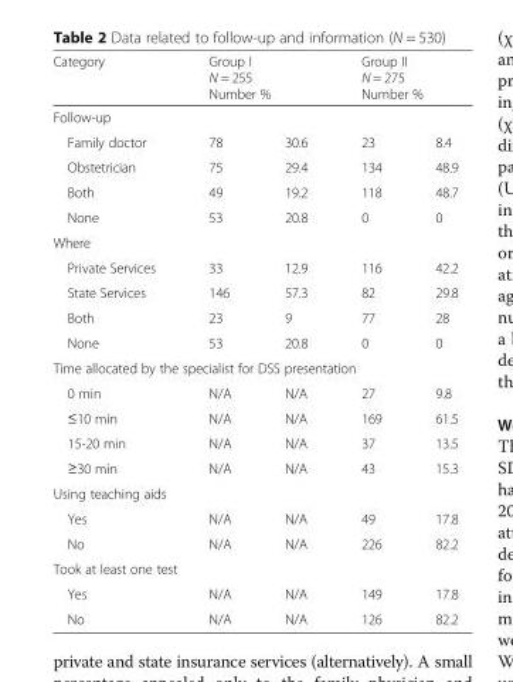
<table><thead><tr><td rowspan="2">Category</td><td rowspan="2" colspan="2">Group I N = 255 Number %</td><td rowspan="2" colspan="2">Group II N = 275 Number %</td></tr><tr></tr><tr><td colspan="5">Follow-up</td></tr><tr><td>Family doctor</td><td>78</td><td>30.6</td><td>23</td><td>8.4</td></tr></thead><tbody><tr><td>Obstetrician</td><td>75</td><td>29.4</td><td>134</td><td>48.9</td></tr><tr><td>Both</td><td>49</td><td>19.2</td><td>118</td><td>48.7</td></tr><tr><td>None</td><td>53</td><td>20.8</td><td>0</td><td>0</td></tr><tr><td colspan="5">Where</td></tr><tr><td>Private Services</td><td>33</td><td>12.9</td><td>116</td><td>42.2</td></tr><tr><td>State Services</td><td>146</td><td>57.3</td><td>82</td><td>29.8</td></tr><tr><td>Both</td><td>23</td><td>9</td><td>77</td><td>28</td></tr><tr><td>None</td><td>53</td><td>20.8</td><td>0</td><td>0</td></tr><tr><td colspan="5">Time allocated by the specialist for DSS presentation</td></tr><tr><td>0 min</td><td>N/A</td><td>N/A</td><td>27</td><td>9.8</td></tr><tr><td>≤10 min</td><td>N/A</td><td>N/A</td><td>169</td><td>61.5</td></tr><tr><td>15-20 min</td><td>N/A</td><td>N/A</td><td>37</td><td>13.5</td></tr><tr><td>≥30 min</td><td>N/A</td><td>N/A</td><td>43</td><td>15.3</td></tr><tr><td colspan="5">Using teaching aids</td></tr><tr><td>Yes</td><td>N/A</td><td>N/A</td><td>49</td><td>17.8</td></tr><tr><td>No</td><td>N/A</td><td>N/A</td><td>226</td><td>82.2</td></tr><tr><td colspan="5">Took at least one test</td></tr><tr><td>Yes</td><td>N/A</td><td>N/A</td><td>149</td><td>17.8</td></tr><tr><td>No</td><td>N/A</td><td>N/A</td><td>126</td><td>82.2</td></tr></tbody></table>